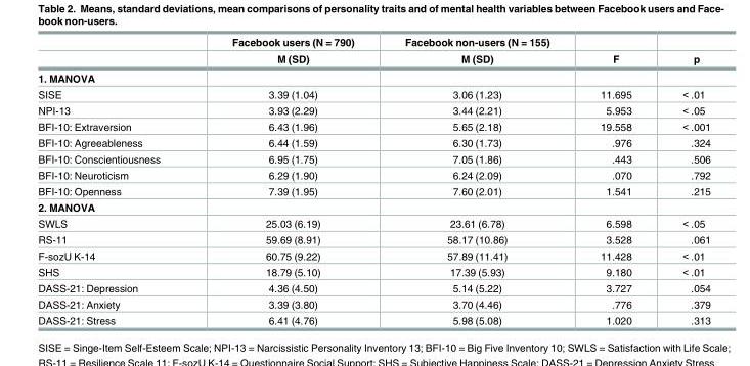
<table><thead><tr><td rowspan="2"></td><td rowspan="2">Facebook users (N = 790) M (SD)</td><td rowspan="2">Facebook non-users (N = 155) M (SD)</td><td rowspan="2">F</td><td rowspan="2">p</td></tr><tr></tr></thead><tbody><tr><td colspan="5">1. MANOVA</td></tr><tr><td>SISE</td><td>3.39 (1.04)</td><td>3.06 (1.23)</td><td>11.695</td><td>&lt; .01</td></tr><tr><td>NPI-13</td><td>3.93 (2.29)</td><td>3.44 (2.21)</td><td>5.953</td><td>&lt; .05</td></tr><tr><td>BFI-10: Extraversion</td><td>6.43 (1.96)</td><td>5.65 (2.18)</td><td>19.558</td><td>&lt; .001</td></tr><tr><td>BFI-10: Agreeableness</td><td>6.44 (1.59)</td><td>6.30 (1.73)</td><td>.976</td><td>.324</td></tr><tr><td>BFI-10: Conscientiousness</td><td>6.95 (1.75)</td><td>7.05 (1.86)</td><td>.443</td><td>.506</td></tr><tr><td>BFI-10: Neuroticism</td><td>6.29 (1.90)</td><td>6.24 (2.09)</td><td>.070</td><td>.792</td></tr><tr><td>BFI-10: Openness</td><td>7.39 (1.95)</td><td>7.60 (2.01)</td><td>1.541</td><td>.215</td></tr><tr><td colspan="5">2. MANOVA</td></tr><tr><td>SWLS</td><td>25.03 (6.19)</td><td>23.61 (6.78)</td><td>6.598</td><td>&lt; .05</td></tr><tr><td>RS-11</td><td>59.69 (8.91)</td><td>58.17 (10.86)</td><td>3.528</td><td>.061</td></tr><tr><td>F-sozU K-14</td><td>60.75 (9.22)</td><td>57.89 (11.41)</td><td>11.428</td><td>&lt; .01</td></tr><tr><td>SHS</td><td>18.79 (5.10)</td><td>17.39 (5.93)</td><td>9.180</td><td>&lt; .01</td></tr><tr><td>DASS-21: Depression</td><td>4.36 (4.50)</td><td>5.14 (5.22)</td><td>3.727</td><td>.054</td></tr><tr><td>DASS-21: Anxiety</td><td>3.39 (3.80)</td><td>3.70 (4.46)</td><td>.776</td><td>.379</td></tr><tr><td>DASS-21: Stress</td><td>6.41 (4.76)</td><td>5.98 (5.08)</td><td>1.020</td><td>.313</td></tr></tbody></table>